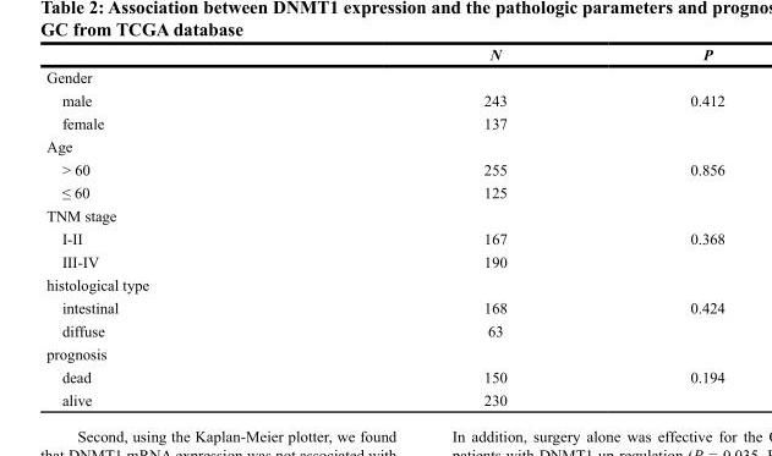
<table><thead><tr><td></td><td>N</td><td>P</td></tr></thead><tbody><tr><td colspan="3">Gender</td></tr><tr><td>male</td><td>243</td><td>0.412</td></tr><tr><td>female</td><td>137</td><td></td></tr><tr><td colspan="3">Age</td></tr><tr><td>&gt; 60</td><td>255</td><td>0.856</td></tr><tr><td>≤ 60</td><td>125</td><td></td></tr><tr><td colspan="3">TNM stage</td></tr><tr><td>I-II</td><td>167</td><td>0.368</td></tr><tr><td>III-IV</td><td>190</td><td></td></tr><tr><td colspan="3">histological type</td></tr><tr><td>intestinal</td><td>168</td><td>0.424</td></tr><tr><td>diffuse</td><td>63</td><td></td></tr><tr><td colspan="3">prognosis</td></tr><tr><td>dead</td><td>150</td><td>0.194</td></tr><tr><td>alive</td><td>230</td><td></td></tr></tbody></table>